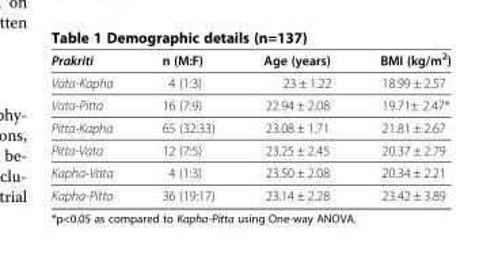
<table><thead><tr><td>Prakriti</td><td>n (M:F)</td><td>Age (years)</td><td>BMI (kg/m<sup>2</sup>)</td></tr></thead><tbody><tr><td>Vata-Kapha</td><td>4 (1:3)</td><td>23 ± 1.22</td><td>18.99 ± 2.57</td></tr><tr><td>Vata-Pitta</td><td>16 (7:9)</td><td>22.94 ± 2.08</td><td>19.71± 2.47*</td></tr><tr><td>Pitta-Kapha</td><td>65 (32:33)</td><td>23.08 ± 1.71</td><td>21.81 ± 2.67</td></tr><tr><td>Pitta-Vata</td><td>12 (7:5)</td><td>23.25 ± 2.45</td><td>20.37 ± 2.79</td></tr><tr><td>Kapha-Vata</td><td>4 (1:3)</td><td>23.50 ± 2.08</td><td>20.34 ± 2.21</td></tr><tr><td>Kapha-Pitta</td><td>36 (19:17)</td><td>23.14 ± 2.28</td><td>23.42 ± 3.89</td></tr></tbody></table>